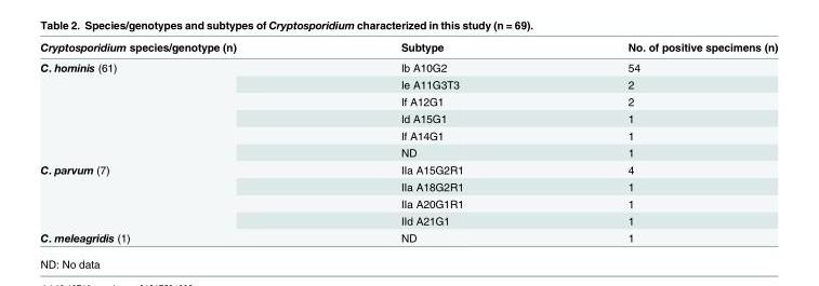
<table><thead><tr><td>Cryptosporidium species/genotype (n)</td><td>Subtype</td><td>No. of positive specimens (n)</td></tr></thead><tbody><tr><td rowspan="6">C. hominis (61)</td><td>Ib A10G2</td><td>54</td></tr><tr><td>Ie A11G3T3</td><td>2</td></tr><tr><td>If A12G1</td><td>2</td></tr><tr><td>Id A15G1</td><td>1</td></tr><tr><td>If A14G1</td><td>1</td></tr><tr><td>ND</td><td>1</td></tr><tr><td rowspan="4">C. parvum (7)</td><td>IIa A15G2R1</td><td>4</td></tr><tr><td>IIa A18G2R1</td><td>1</td></tr><tr><td>IIa A20G1R1</td><td>1</td></tr><tr><td>IId A21G1</td><td>1</td></tr><tr><td>C. meleagridis (1)</td><td>ND</td><td>1</td></tr></tbody></table>